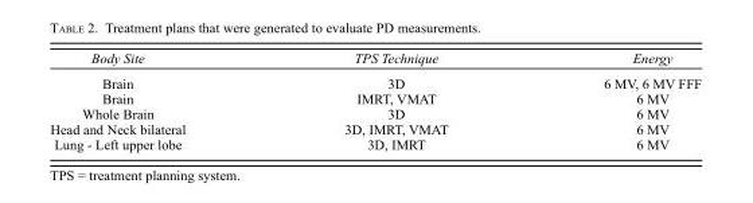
<table><thead><tr><td>Body Site</td><td>TPS Technique</td><td>Energy</td></tr></thead><tbody><tr><td>Brain</td><td>3D</td><td>6 MV, 6 MV FFF</td></tr><tr><td>Brain</td><td>IMRT, VMAT</td><td>6 MV</td></tr><tr><td>Whole Brain</td><td>3D</td><td>6 MV</td></tr><tr><td>Head and Neck bilateral</td><td>3D, IMRT, VMAT</td><td>6 MV</td></tr><tr><td>Lung - Left upper lobe</td><td>3D, IMRT</td><td>6 MV</td></tr></tbody></table>